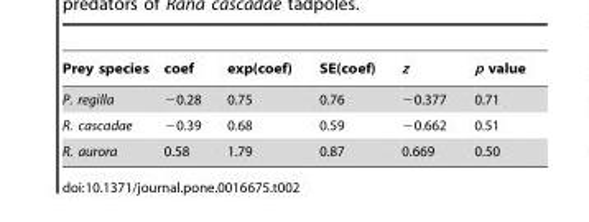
<table><thead><tr><td>Prey species</td><td>coef</td><td>exp(coef)</td><td>SE(coef)</td><td>z</td><td>p value</td></tr></thead><tbody><tr><td>P. regilla</td><td>−0.28</td><td>0.75</td><td>0.76</td><td>−0.377</td><td>0.71</td></tr><tr><td>R. cascadae</td><td>−0.39</td><td>0.68</td><td>0.59</td><td>−0.662</td><td>0.51</td></tr><tr><td>R. aurora</td><td>0.58</td><td>1.79</td><td>0.87</td><td>0.669</td><td>0.50</td></tr></tbody></table>